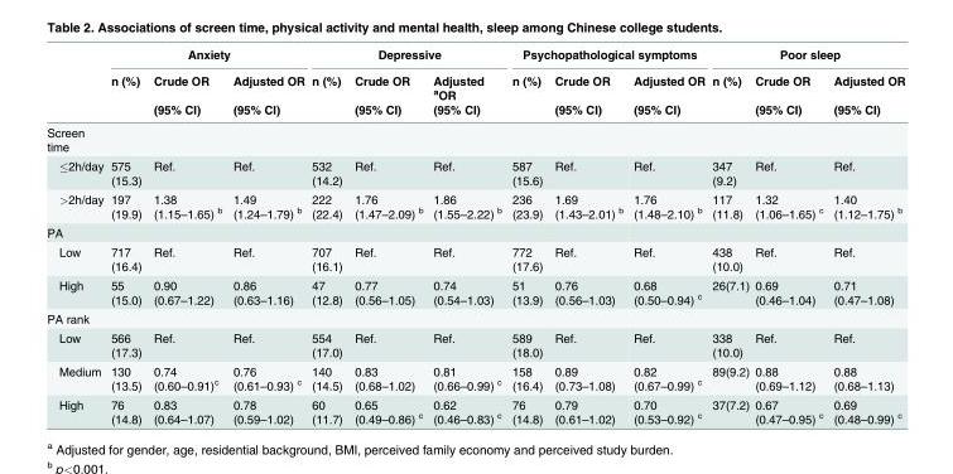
<table><thead><tr><td rowspan="3"></td><td colspan="3">Anxiety</td><td colspan="3">Depressive</td><td colspan="3">Psychopathological symptoms</td><td colspan="3">Poor sleep</td></tr><tr><td rowspan="2">n (%)</td><td rowspan="2">Crude OR (95% CI)</td><td rowspan="2">Adjusted OR (95% CI)</td><td rowspan="2">n (%)</td><td rowspan="2">Crude OR (95% CI)</td><td rowspan="2">Adjusted <sup>a</sup>OR (95% CI)</td><td rowspan="2">n (%)</td><td rowspan="2">Crude OR (95% CI)</td><td rowspan="2">Adjusted OR (95% CI)</td><td rowspan="2">n (%)</td><td rowspan="2">Crude OR (95% CI)</td><td rowspan="2">Adjusted OR (95% CI)</td></tr><tr></tr></thead><tbody><tr><td colspan="13">Screen time</td></tr><tr><td>≤2h/day</td><td>575 (15.3)</td><td>Ref.</td><td>Ref.</td><td>532 (14.2)</td><td>Ref.</td><td>Ref.</td><td>587 (15.6)</td><td>Ref.</td><td>Ref.</td><td>347 (9.2)</td><td>Ref.</td><td>Ref.</td></tr><tr><td>&gt;2h/day</td><td>197 (19.9)</td><td>1.38 (1.15–1.65) <sup>b</sup></td><td>1.49 (1.24–1.79) <sup>b</sup></td><td>222 (22.4)</td><td>1.76 (1.47–2.09) <sup>b</sup></td><td>1.86 (1.55–2.22) <sup>b</sup></td><td>236 (23.9)</td><td>1.69 (1.43–2.01) <sup>b</sup></td><td>1.76 (1.48–2.10) <sup>b</sup></td><td>117 (11.8)</td><td>1.32 (1.06–1.65) <sup>c</sup></td><td>1.40 (1.12–1.75) <sup>b</sup></td></tr><tr><td colspan="13">PA</td></tr><tr><td>Low</td><td>717 (16.4)</td><td>Ref.</td><td>Ref.</td><td>707 (16.1)</td><td>Ref.</td><td>Ref.</td><td>772 (17.6)</td><td>Ref.</td><td>Ref.</td><td>438 (10.0)</td><td>Ref.</td><td>Ref.</td></tr><tr><td>High</td><td>55 (15.0)</td><td>0.90 (0.67–1.22)</td><td>0.86 (0.63–1.16)</td><td>47 (12.8)</td><td>0.77 (0.56–1.05)</td><td>0.74 (0.54–1.03)</td><td>51 (13.9)</td><td>0.76 (0.56–1.03)</td><td>0.68 (0.50–0.94) <sup>c</sup></td><td>26(7.1)</td><td>0.69 (0.46–1.04)</td><td>0.71 (0.47–1.08)</td></tr><tr><td colspan="13">PA rank</td></tr><tr><td>Low</td><td>566 (17.3)</td><td>Ref.</td><td>Ref.</td><td>554 (17.0)</td><td>Ref.</td><td>Ref.</td><td>589 (18.0)</td><td>Ref.</td><td>Ref.</td><td>338 (10.0)</td><td>Ref.</td><td>Ref.</td></tr><tr><td>Medium</td><td>130 (13.5)</td><td>0.74 (0.60–0.91)<sup>c</sup></td><td>0.76 (0.61–0.93) <sup>c</sup></td><td>140 (14.5)</td><td>0.83 (0.68–1.02)</td><td>0.81 (0.66–0.99) <sup>c</sup></td><td>158 (16.4)</td><td>0.89 (0.73–1.08)</td><td>0.82 (0.67–0.99) <sup>c</sup></td><td>89(9.2)</td><td>0.88 (0.69–1.12)</td><td>0.88 (0.68–1.13)</td></tr><tr><td>High</td><td>76 (14.8)</td><td>0.83 (0.64–1.07)</td><td>0.78 (0.59–1.02)</td><td>60 (11.7)</td><td>0.65 (0.49–0.86) <sup>c</sup></td><td>0.62 (0.46–0.83) <sup>c</sup></td><td>76 (14.8)</td><td>0.79 (0.61–1.02)</td><td>0.70 (0.53–0.92) <sup>c</sup></td><td>37(7.2)</td><td>0.67 (0.47–0.95) <sup>c</sup></td><td>0.69 (0.48–0.99) <sup>c</sup></td></tr></tbody></table>